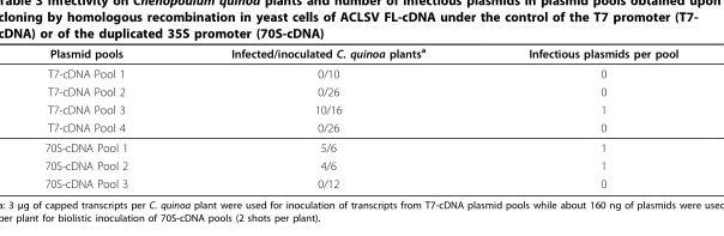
<table><thead><tr><td>Plasmid pools</td><td>Infected/inoculated C. quinoa plants<sup>a</sup></td><td>Infectious plasmids per pool</td></tr></thead><tbody><tr><td>T7-cDNA Pool 1</td><td>0/10</td><td>0</td></tr><tr><td>T7-cDNA Pool 2</td><td>0/26</td><td>0</td></tr><tr><td>T7-cDNA Pool 3</td><td>10/16</td><td>1</td></tr><tr><td>T7-cDNA Pool 4</td><td>0/26</td><td>0</td></tr><tr><td>70S-cDNA Pool 1</td><td>5/6</td><td>1</td></tr><tr><td>70S-cDNA Pool 2</td><td>4/6</td><td>1</td></tr><tr><td>70S-cDNA Pool 3</td><td>0/12</td><td>0</td></tr></tbody></table>